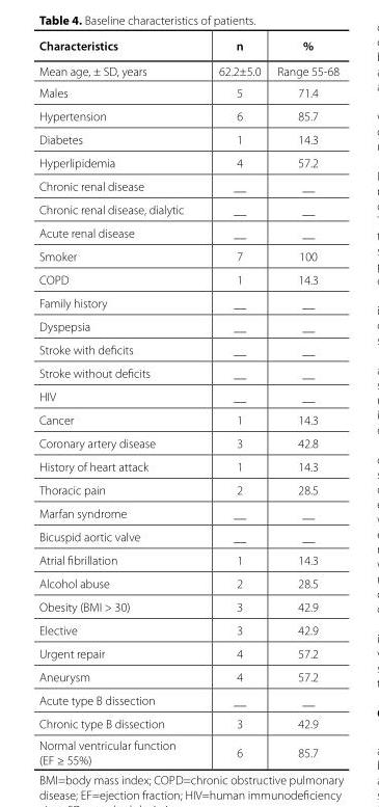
<table><thead><tr><td>Characteristics</td><td>n</td><td>%</td></tr></thead><tbody><tr><td>Mean age, ± SD, years</td><td>62.2±5.0</td><td>Range 55-68</td></tr><tr><td>Males</td><td>5</td><td>71.4</td></tr><tr><td>Hypertension</td><td>6</td><td>85.7</td></tr><tr><td>Diabetes</td><td>1</td><td>14.3</td></tr><tr><td>Hyperlipidemia</td><td>4</td><td>57.2</td></tr><tr><td>Chronic renal disease</td><td>__</td><td>__</td></tr><tr><td>Chronic renal disease, dialytic</td><td>__</td><td>__</td></tr><tr><td>Acute renal disease</td><td>__</td><td>__</td></tr><tr><td>Smoker</td><td>7</td><td>100</td></tr><tr><td>COPD</td><td>1</td><td>14.3</td></tr><tr><td>Family history</td><td>__</td><td>__</td></tr><tr><td>Dyspepsia</td><td>__</td><td>__</td></tr><tr><td>Stroke with deficits</td><td>__</td><td>__</td></tr><tr><td>Stroke without deficits</td><td>__</td><td>__</td></tr><tr><td>HIV</td><td>__</td><td>__</td></tr><tr><td>Cancer</td><td>1</td><td>14.3</td></tr><tr><td>Coronary artery disease</td><td>3</td><td>42.8</td></tr><tr><td>History of heart attack</td><td>1</td><td>14.3</td></tr><tr><td>Thoracic pain</td><td>2</td><td>28.5</td></tr><tr><td>Marfan syndrome</td><td>__</td><td>__</td></tr><tr><td>Bicuspid aortic valve</td><td>__</td><td>__</td></tr><tr><td>Atrial fibrillation</td><td>1</td><td>14.3</td></tr><tr><td>Alcohol abuse</td><td>2</td><td>28.5</td></tr><tr><td>Obesity (BMI &gt; 30)</td><td>3</td><td>42.9</td></tr><tr><td>Elective</td><td>3</td><td>42.9</td></tr><tr><td>Urgent repair</td><td>4</td><td>57.2</td></tr><tr><td>Aneurysm</td><td>4</td><td>57.2</td></tr><tr><td>Acute type B dissection</td><td>__</td><td>__</td></tr><tr><td>Chronic type B dissection</td><td>3</td><td>42.9</td></tr><tr><td>Normal ventricular function (EF ≥ 55%)</td><td>6</td><td>85.7</td></tr></tbody></table>